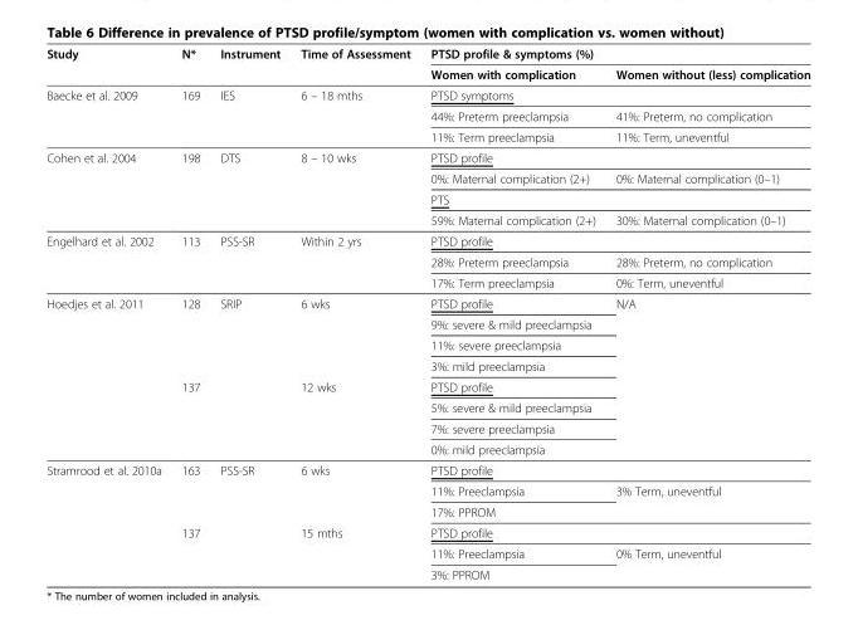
<table><thead><tr><td rowspan="2">Study</td><td rowspan="2">N*</td><td rowspan="2">Instrument</td><td rowspan="2">Time of Assessment</td><td colspan="2">PTSD profile &amp; symptoms (%)</td></tr><tr><td>Women with complication</td><td>Women without (less) complication</td></tr></thead><tbody><tr><td rowspan="3">Baecke et al. 2009</td><td>169</td><td>IES</td><td>6 – 18 mths</td><td>PTSD symptoms</td><td></td></tr><tr><td></td><td></td><td></td><td>44%: Preterm preeclampsia</td><td>41%: Preterm, no complication</td></tr><tr><td></td><td></td><td></td><td>11%: Term preeclampsia</td><td>11%: Term, uneventful</td></tr><tr><td rowspan="4">Cohen et al. 2004</td><td>198</td><td>DTS</td><td>8 – 10 wks</td><td>PTSD profile</td><td></td></tr><tr><td></td><td></td><td></td><td>0%: Maternal complication (2+)</td><td>0%: Maternal complication (0–1)</td></tr><tr><td></td><td></td><td></td><td>PTS</td><td></td></tr><tr><td></td><td></td><td></td><td>59%: Maternal complication (2+)</td><td>30%: Maternal complication (0–1)</td></tr><tr><td rowspan="3">Engelhard et al. 2002</td><td>113</td><td>PSS-SR</td><td>Within 2 yrs</td><td>PTSD profile</td><td></td></tr><tr><td></td><td></td><td></td><td>28%: Preterm preeclampsia</td><td>28%: Preterm, no complication</td></tr><tr><td></td><td></td><td></td><td>17%: Term preeclampsia</td><td>0%: Term, uneventful</td></tr><tr><td rowspan="8">Hoedjes et al. 2011</td><td>128</td><td>SRIP</td><td>6 wks</td><td>PTSD profile</td><td>N/A</td></tr><tr><td></td><td></td><td></td><td>9%: severe &amp; mild preeclampsia</td><td></td></tr><tr><td></td><td></td><td></td><td>11%: severe preeclampsia</td><td></td></tr><tr><td></td><td></td><td></td><td>3%: mild preeclampsia</td><td></td></tr><tr><td>137</td><td></td><td>12 wks</td><td>PTSD profile</td><td></td></tr><tr><td></td><td></td><td></td><td>5%: severe &amp; mild preeclampsia</td><td></td></tr><tr><td></td><td></td><td></td><td>7%: severe preeclampsia</td><td></td></tr><tr><td></td><td></td><td></td><td>0%: mild preeclampsia</td><td></td></tr><tr><td rowspan="6">Stramrood et al. 2010a</td><td>163</td><td>PSS-SR</td><td>6 wks</td><td>PTSD profile</td><td></td></tr><tr><td></td><td></td><td></td><td>11%: Preeclampsia</td><td>3% Term, uneventful</td></tr><tr><td></td><td></td><td></td><td>17%: PPROM</td><td></td></tr><tr><td>137</td><td></td><td>15 mths</td><td>PTSD profile</td><td></td></tr><tr><td></td><td></td><td></td><td>11%: Preeclampsia</td><td>0% Term, uneventful</td></tr><tr><td></td><td></td><td></td><td>3%: PPROM</td><td></td></tr></tbody></table>